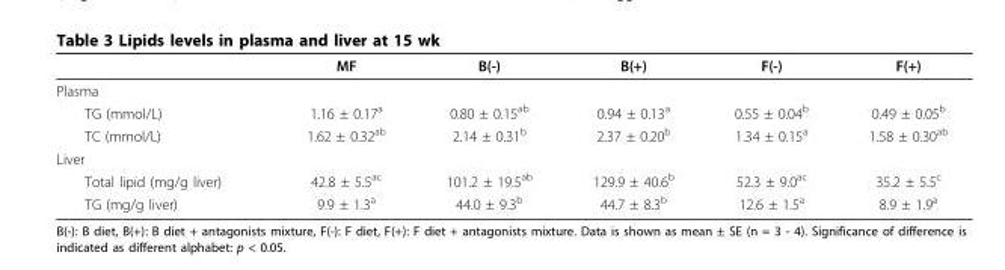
<table><thead><tr><td></td><td>MF</td><td>B(-)</td><td>B(+)</td><td>F(-)</td><td>F(+)</td></tr></thead><tbody><tr><td colspan="6">Plasma</td></tr><tr><td>TG (mmol/L)</td><td>1.16 ± 0.17<sup>a</sup></td><td>0.80 ± 0.15<sup>ab</sup></td><td>0.94 ± 0.13<sup>a</sup></td><td>0.55 ± 0.04<sup>b</sup></td><td>0.49 ± 0.05<sup>b</sup></td></tr><tr><td>TC (mmol/L)</td><td>1.62 ± 0.32<sup>ab</sup></td><td>2.14 ± 0.31<sup>b</sup></td><td>2.37 ± 0.20<sup>b</sup></td><td>1.34 ± 0.15<sup>a</sup></td><td>1.58 ± 0.30<sup>ab</sup></td></tr><tr><td colspan="6">Liver</td></tr><tr><td>Total lipid (mg/g liver)</td><td>42.8 ± 5.5<sup>ac</sup></td><td>101.2 ± 19.5<sup>ab</sup></td><td>129.9 ± 40.6<sup>b</sup></td><td>52.3 ± 9.0<sup>ac</sup></td><td>35.2 ± 5.5<sup>c</sup></td></tr><tr><td>TG (mg/g liver)</td><td>9.9 ± 1.3<sup>a</sup></td><td>44.0 ± 9.3<sup>b</sup></td><td>44.7 ± 8.3<sup>b</sup></td><td>12.6 ± 1.5<sup>a</sup></td><td>8.9 ± 1.9<sup>a</sup></td></tr></tbody></table>